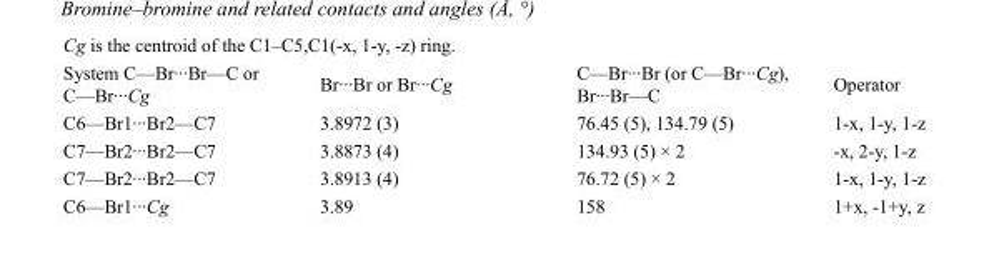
<table><tbody><tr><td>System C—Br···Br—C or C—Br···Cg</td><td>Br···Br or Br···Cg</td><td>C—Br···Br (or C—Br···Cg), Br···Br—C</td><td>Operator</td></tr><tr><td>C6—Br1···Br2—C7</td><td>3.8972 (3)</td><td>76.45 (5), 134.79 (5)</td><td>1-x, 1-y, 1-z</td></tr><tr><td>C7—Br2···Br2—C7</td><td>3.8873 (4)</td><td>134.93 (5) × 2</td><td>-x, 2-y, 1-z</td></tr><tr><td>C7—Br2···Br2—C7</td><td>3.8913 (4)</td><td>76.72 (5) × 2</td><td>1-x, 1-y, 1-z</td></tr><tr><td>C6—Br1···Cg</td><td>3.89</td><td>158</td><td>1+x, -1+y, z</td></tr></tbody></table>